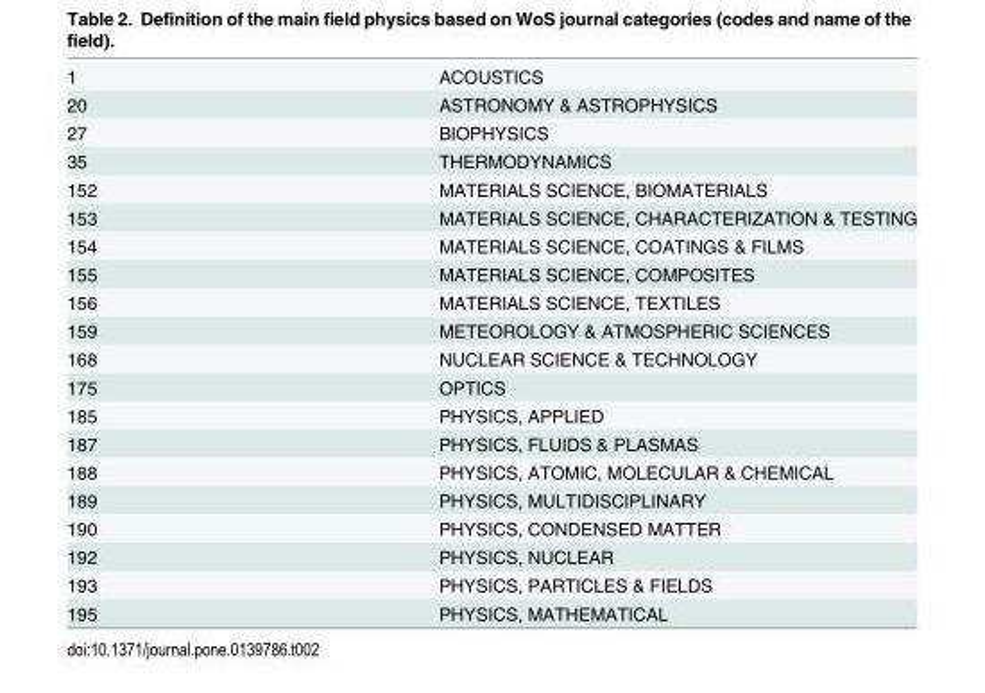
<table><tbody><tr><td>1</td><td>ACOUSTICS</td></tr><tr><td>20</td><td>ASTRONOMY &amp; ASTROPHYSICS</td></tr><tr><td>27</td><td>BIOPHYSICS</td></tr><tr><td>35</td><td>THERMODYNAMICS</td></tr><tr><td>152</td><td>MATERIALS SCIENCE, BIOMATERIALS</td></tr><tr><td>153</td><td>MATERIALS SCIENCE, CHARACTERIZATION &amp; TESTING</td></tr><tr><td>154</td><td>MATERIALS SCIENCE, COATINGS &amp; FILMS</td></tr><tr><td>155</td><td>MATERIALS SCIENCE, COMPOSITES</td></tr><tr><td>156</td><td>MATERIALS SCIENCE, TEXTILES</td></tr><tr><td>159</td><td>METEOROLOGY &amp; ATMOSPHERIC SCIENCES</td></tr><tr><td>168</td><td>NUCLEAR SCIENCE &amp; TECHNOLOGY</td></tr><tr><td>175</td><td>OPTICS</td></tr><tr><td>185</td><td>PHYSICS, APPLIED</td></tr><tr><td>187</td><td>PHYSICS, FLUIDS &amp; PLASMAS</td></tr><tr><td>188</td><td>PHYSICS, ATOMIC, MOLECULAR &amp; CHEMICAL</td></tr><tr><td>189</td><td>PHYSICS, MULTIDISCIPLINARY</td></tr><tr><td>190</td><td>PHYSICS, CONDENSED MATTER</td></tr><tr><td>192</td><td>PHYSICS, NUCLEAR</td></tr><tr><td>193</td><td>PHYSICS, PARTICLES &amp; FIELDS</td></tr><tr><td>195</td><td>PHYSICS, MATHEMATICAL</td></tr></tbody></table>